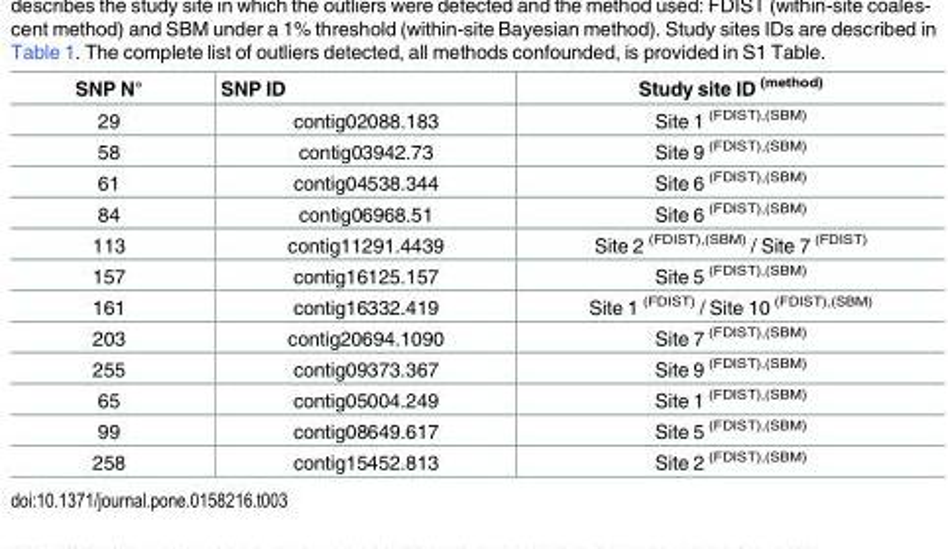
<table><thead><tr><td>SNP N°</td><td>SNP ID</td><td>Study site ID <sup>(method)</sup></td></tr></thead><tbody><tr><td>29</td><td>contig02088.183</td><td>Site 1 <sup>(FDIST),(SBM)</sup></td></tr><tr><td>58</td><td>contig03942.73</td><td>Site 9 <sup>(FDIST),(SBM)</sup></td></tr><tr><td>61</td><td>contig04538.344</td><td>Site 6 <sup>(FDIST),(SBM)</sup></td></tr><tr><td>84</td><td>contig06968.51</td><td>Site 6 <sup>(FDIST),(SBM)</sup></td></tr><tr><td>113</td><td>contig11291.4439</td><td>Site 2 <sup>(FDIST),(SBM)</sup> / Site 7 <sup>(FDIST)</sup></td></tr><tr><td>157</td><td>contig16125.157</td><td>Site 5 <sup>(FDIST),(SBM)</sup></td></tr><tr><td>161</td><td>contig16332.419</td><td>Site 1 <sup>(FDIST)</sup> / Site 10 <sup>(FDIST),(SBM)</sup></td></tr><tr><td>203</td><td>contig20694.1090</td><td>Site 7 <sup>(FDIST),(SBM)</sup></td></tr><tr><td>255</td><td>contig09373.367</td><td>Site 9 <sup>(FDIST),(SBM)</sup></td></tr><tr><td>65</td><td>contig05004.249</td><td>Site 1 <sup>(FDIST),(SBM)</sup></td></tr><tr><td>99</td><td>contig08649.617</td><td>Site 5 <sup>(FDIST),(SBM)</sup></td></tr><tr><td>258</td><td>contig15452.813</td><td>Site 2 <sup>(FDIST),(SBM)</sup></td></tr></tbody></table>